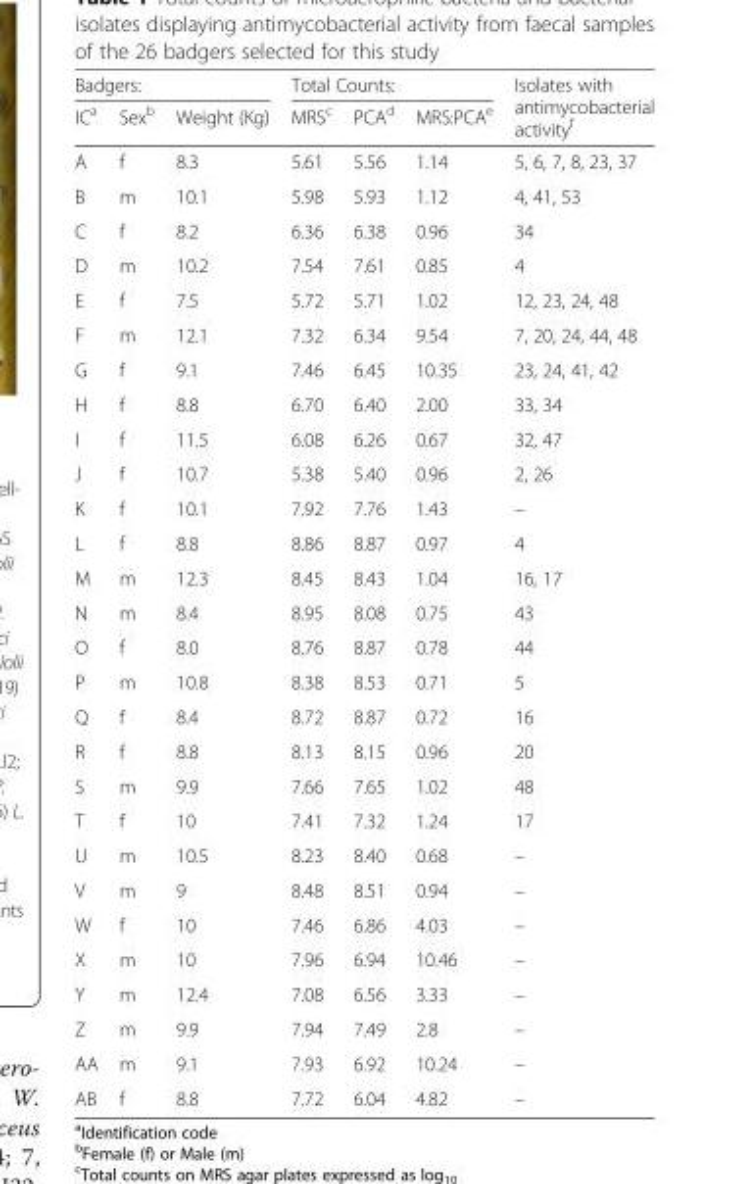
<table><thead><tr><td colspan="3">Badgers:</td><td colspan="3">Total Counts:</td><td rowspan="2">Isolates with antimycobacterial activity<sup>f</sup></td></tr><tr><td>IC<sup>a</sup></td><td>Sex<sup>b</sup></td><td>Weight (Kg)</td><td>MRS<sup>c</sup></td><td>PCA<sup>d</sup></td><td>MRS:PCA<sup>e</sup></td></tr></thead><tbody><tr><td>A</td><td>f</td><td>8.3</td><td>5.61</td><td>5.56</td><td>1.14</td><td>5, 6, 7, 8, 23, 37</td></tr><tr><td>B</td><td>m</td><td>10.1</td><td>5.98</td><td>5.93</td><td>1.12</td><td>4, 41, 53</td></tr><tr><td>C</td><td>f</td><td>8.2</td><td>6.36</td><td>6.38</td><td>0.96</td><td>34</td></tr><tr><td>D</td><td>m</td><td>10.2</td><td>7.54</td><td>7.61</td><td>0.85</td><td>4</td></tr><tr><td>E</td><td>f</td><td>7.5</td><td>5.72</td><td>5.71</td><td>1.02</td><td>12, 23, 24, 48</td></tr><tr><td>F</td><td>m</td><td>12.1</td><td>7.32</td><td>6.34</td><td>9.54</td><td>7, 20, 24, 44, 48</td></tr><tr><td>G</td><td>f</td><td>9.1</td><td>7.46</td><td>6.45</td><td>10.35</td><td>23, 24, 41, 42</td></tr><tr><td>H</td><td>f</td><td>8.8</td><td>6.70</td><td>6.40</td><td>2.00</td><td>33, 34</td></tr><tr><td>I</td><td>f</td><td>11.5</td><td>6.08</td><td>6.26</td><td>0.67</td><td>32, 47</td></tr><tr><td>J</td><td>f</td><td>10.7</td><td>5.38</td><td>5.40</td><td>0.96</td><td>2, 26</td></tr><tr><td>K</td><td>f</td><td>10.1</td><td>7.92</td><td>7.76</td><td>1.43</td><td>–</td></tr><tr><td>L</td><td>f</td><td>8.8</td><td>8.86</td><td>8.87</td><td>0.97</td><td>4</td></tr><tr><td>M</td><td>m</td><td>12.3</td><td>8.45</td><td>8.43</td><td>1.04</td><td>16, 17</td></tr><tr><td>N</td><td>m</td><td>8.4</td><td>8.95</td><td>8.08</td><td>0.75</td><td>43</td></tr><tr><td>O</td><td>f</td><td>8.0</td><td>8.76</td><td>8.87</td><td>0.78</td><td>44</td></tr><tr><td>P</td><td>m</td><td>10.8</td><td>8.38</td><td>8.53</td><td>0.71</td><td>5</td></tr><tr><td>Q</td><td>f</td><td>8.4</td><td>8.72</td><td>8.87</td><td>0.72</td><td>16</td></tr><tr><td>R</td><td>f</td><td>8.8</td><td>8.13</td><td>8.15</td><td>0.96</td><td>20</td></tr><tr><td>S</td><td>m</td><td>9.9</td><td>7.66</td><td>7.65</td><td>1.02</td><td>48</td></tr><tr><td>T</td><td>f</td><td>10</td><td>7.41</td><td>7.32</td><td>1.24</td><td>17</td></tr><tr><td>U</td><td>m</td><td>10.5</td><td>8.23</td><td>8.40</td><td>0.68</td><td>–</td></tr><tr><td>V</td><td>m</td><td>9</td><td>8.48</td><td>8.51</td><td>0.94</td><td>–</td></tr><tr><td>W</td><td>f</td><td>10</td><td>7.46</td><td>6.86</td><td>4.03</td><td>–</td></tr><tr><td>X</td><td>m</td><td>10</td><td>7.96</td><td>6.94</td><td>10.46</td><td>–</td></tr><tr><td>Y</td><td>m</td><td>12.4</td><td>7.08</td><td>6.56</td><td>3.33</td><td>–</td></tr><tr><td>Z</td><td>m</td><td>9.9</td><td>7.94</td><td>7.49</td><td>2.8</td><td>–</td></tr><tr><td>AA</td><td>m</td><td>9.1</td><td>7.93</td><td>6.92</td><td>10.24</td><td>–</td></tr><tr><td>AB</td><td>f</td><td>8.8</td><td>7.72</td><td>6.04</td><td>4.82</td><td>–</td></tr></tbody></table>